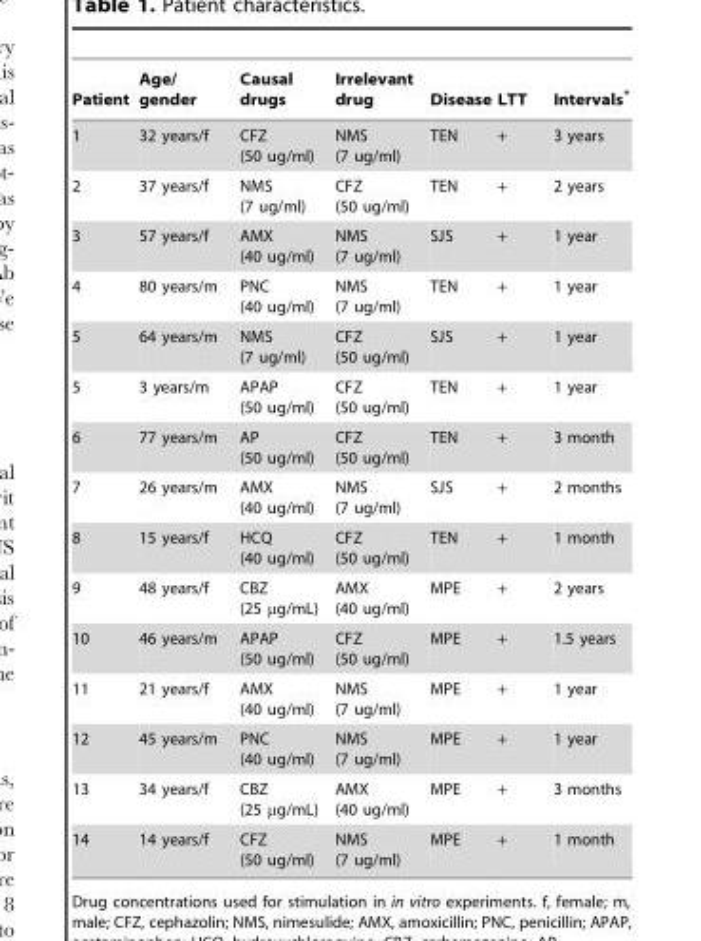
<table><thead><tr><td>Patient</td><td>Age/ gender</td><td>Causal drugs</td><td>Irrelevant drug</td><td>Disease</td><td>LTT</td><td>Intervals*</td></tr></thead><tbody><tr><td>1</td><td>32 years/f</td><td>CFZ (50 ug/ml)</td><td>NMS (7 ug/ml)</td><td>TEN</td><td>+</td><td>3 years</td></tr><tr><td>2</td><td>37 years/f</td><td>NMS (7 ug/ml)</td><td>CFZ (50 ug/ml)</td><td>TEN</td><td>+</td><td>2 years</td></tr><tr><td>3</td><td>57 years/f</td><td>AMX (40 ug/ml)</td><td>NMS (7 ug/ml)</td><td>SJS</td><td>+</td><td>1 year</td></tr><tr><td>4</td><td>80 years/m</td><td>PNC (40 ug/ml)</td><td>NMS (7 ug/ml)</td><td>TEN</td><td>+</td><td>1 year</td></tr><tr><td>5</td><td>64 years/m</td><td>NMS (7 ug/ml)</td><td>CFZ (50 ug/ml)</td><td>SJS</td><td>+</td><td>1 year</td></tr><tr><td>5</td><td>3 years/m</td><td>APAP (50 ug/ml)</td><td>CFZ (50 ug/ml)</td><td>TEN</td><td>+</td><td>1 year</td></tr><tr><td>6</td><td>77 years/m</td><td>AP (50 ug/ml)</td><td>CFZ (50 ug/ml)</td><td>TEN</td><td>+</td><td>3 month</td></tr><tr><td>7</td><td>26 years/m</td><td>AMX (40 ug/ml)</td><td>NMS (7 ug/ml)</td><td>SJS</td><td>+</td><td>2 months</td></tr><tr><td>8</td><td>15 years/f</td><td>HCQ (40 ug/ml)</td><td>CFZ (50 ug/ml)</td><td>TEN</td><td>+</td><td>1 month</td></tr><tr><td>9</td><td>48 years/f</td><td>CBZ (25 μg/mL)</td><td>AMX (40 ug/ml)</td><td>MPE</td><td>+</td><td>2 years</td></tr><tr><td>10</td><td>46 years/m</td><td>APAP (50 ug/ml)</td><td>CFZ (50 ug/ml)</td><td>MPE</td><td>+</td><td>1.5 years</td></tr><tr><td>11</td><td>21 years/f</td><td>AMX (40 ug/ml)</td><td>NMS (7 ug/ml)</td><td>MPE</td><td>+</td><td>1 year</td></tr><tr><td>12</td><td>45 years/m</td><td>PNC (40 ug/ml)</td><td>NMS (7 ug/ml)</td><td>MPE</td><td>+</td><td>1 year</td></tr><tr><td>13</td><td>34 years/f</td><td>CBZ (25 μg/mL)</td><td>AMX (40 ug/ml)</td><td>MPE</td><td>+</td><td>3 months</td></tr><tr><td>14</td><td>14 years/f</td><td>CFZ (50 ug/ml)</td><td>NMS (7 ug/ml)</td><td>MPE</td><td>+</td><td>1 month</td></tr></tbody></table>